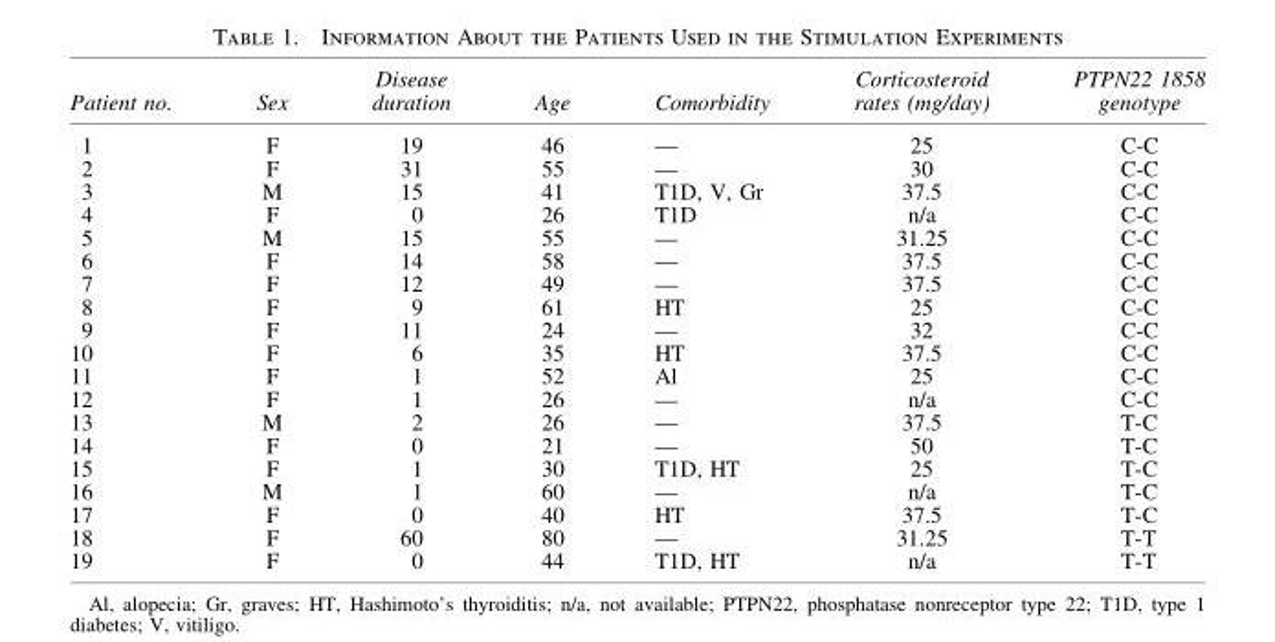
<table><thead><tr><td>Patient no.</td><td>Sex</td><td>Disease duration</td><td>Age</td><td>Comorbidity</td><td>Corticosteroid rates (mg/day)</td><td>PTPN22 1858 genotype</td></tr></thead><tbody><tr><td>1</td><td>F</td><td>19</td><td>46</td><td>—</td><td>25</td><td>C-C</td></tr><tr><td>2</td><td>F</td><td>31</td><td>55</td><td>—</td><td>30</td><td>C-C</td></tr><tr><td>3</td><td>M</td><td>15</td><td>41</td><td>T1D, V, Gr</td><td>37.5</td><td>C-C</td></tr><tr><td>4</td><td>F</td><td>0</td><td>26</td><td>T1D</td><td>n/a</td><td>C-C</td></tr><tr><td>5</td><td>M</td><td>15</td><td>55</td><td>—</td><td>31.25</td><td>C-C</td></tr><tr><td>6</td><td>F</td><td>14</td><td>58</td><td>—</td><td>37.5</td><td>C-C</td></tr><tr><td>7</td><td>F</td><td>12</td><td>49</td><td>—</td><td>37.5</td><td>C-C</td></tr><tr><td>8</td><td>F</td><td>9</td><td>61</td><td>HT</td><td>25</td><td>C-C</td></tr><tr><td>9</td><td>F</td><td>11</td><td>24</td><td>—</td><td>32</td><td>C-C</td></tr><tr><td>10</td><td>F</td><td>6</td><td>35</td><td>HT</td><td>37.5</td><td>C-C</td></tr><tr><td>11</td><td>F</td><td>1</td><td>52</td><td>Al</td><td>25</td><td>C-C</td></tr><tr><td>12</td><td>F</td><td>1</td><td>26</td><td>—</td><td>n/a</td><td>C-C</td></tr><tr><td>13</td><td>M</td><td>2</td><td>26</td><td>—</td><td>37.5</td><td>T-C</td></tr><tr><td>14</td><td>F</td><td>0</td><td>21</td><td>—</td><td>50</td><td>T-C</td></tr><tr><td>15</td><td>F</td><td>1</td><td>30</td><td>T1D, HT</td><td>25</td><td>T-C</td></tr><tr><td>16</td><td>M</td><td>1</td><td>60</td><td>—</td><td>n/a</td><td>T-C</td></tr><tr><td>17</td><td>F</td><td>0</td><td>40</td><td>HT</td><td>37.5</td><td>T-C</td></tr><tr><td>18</td><td>F</td><td>60</td><td>80</td><td>—</td><td>31.25</td><td>T-T</td></tr><tr><td>19</td><td>F</td><td>0</td><td>44</td><td>T1D, HT</td><td>n/a</td><td>T-T</td></tr></tbody></table>